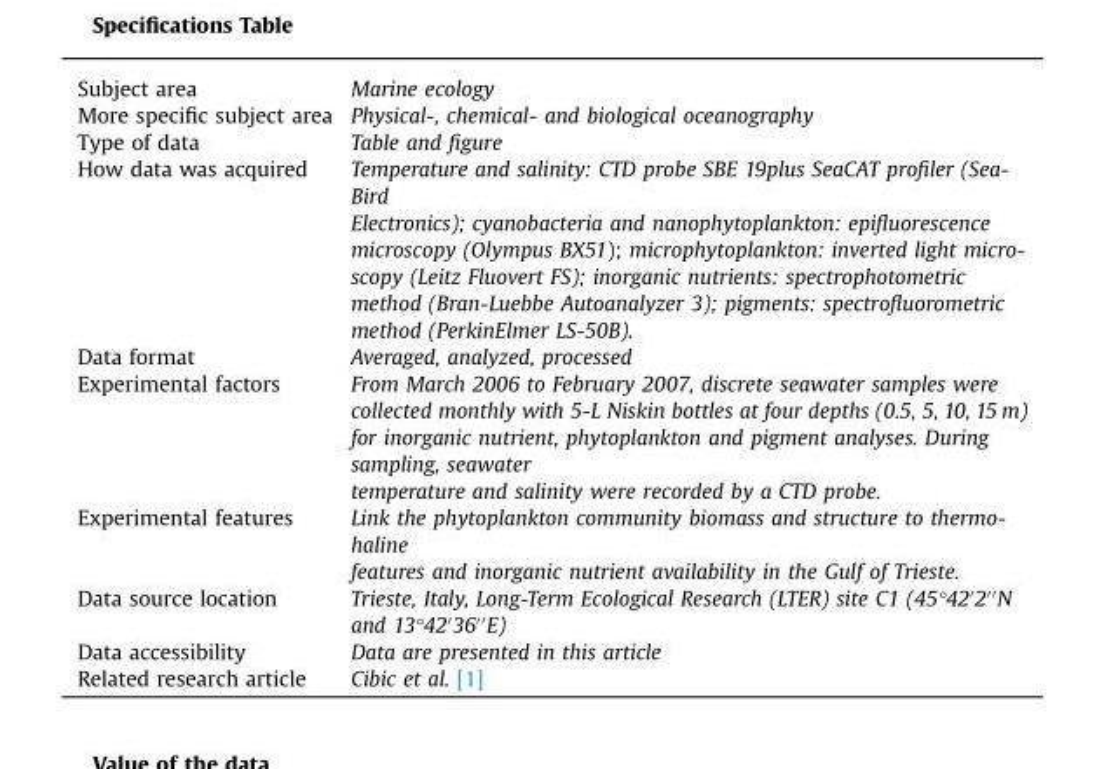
<table><tbody><tr><td>Subject area</td><td>Marine ecology</td></tr><tr><td>More specific subject area</td><td>Physical-, chemical- and biological oceanography</td></tr><tr><td>Type of data</td><td>Table and figure</td></tr><tr><td>How data was acquired</td><td>Temperature and salinity: CTD probe SBE 19plus SeaCAT profiler (Sea- Bird Electronics); cyanobacteria and nanophytoplankton: epifluorescence microscopy (Olympus BX51); microphytoplankton: inverted light micro- scopy (Leitz Fluovert FS); inorganic nutrients: spectrophotometric method (Bran-Luebbe Autoanalyzer 3); pigments: spectrofluorometric method (PerkinElmer LS-50B).</td></tr><tr><td>Data format</td><td>Averaged, analyzed, processed</td></tr><tr><td>Experimental factors</td><td>From March 2006 to February 2007, discrete seawater samples were collected monthly with 5-L Niskin bottles at four depths (0.5, 5, 10, 15 m) for inorganic nutrient, phytoplankton and pigment analyses. During sampling, seawater temperature and salinity were recorded by a CTD probe.</td></tr><tr><td>Experimental features</td><td>Link the phytoplankton community biomass and structure to thermo- haline features and inorganic nutrient availability in the Gulf of Trieste.</td></tr><tr><td>Data source location</td><td>Trieste, Italy, Long-Term Ecological Research (LTER) site C1 (45°42′2′′N and 13°42′36′′E)</td></tr><tr><td>Data accessibility</td><td>Data are presented in this article</td></tr><tr><td>Related research article</td><td>Cibic et al. [1]</td></tr></tbody></table>